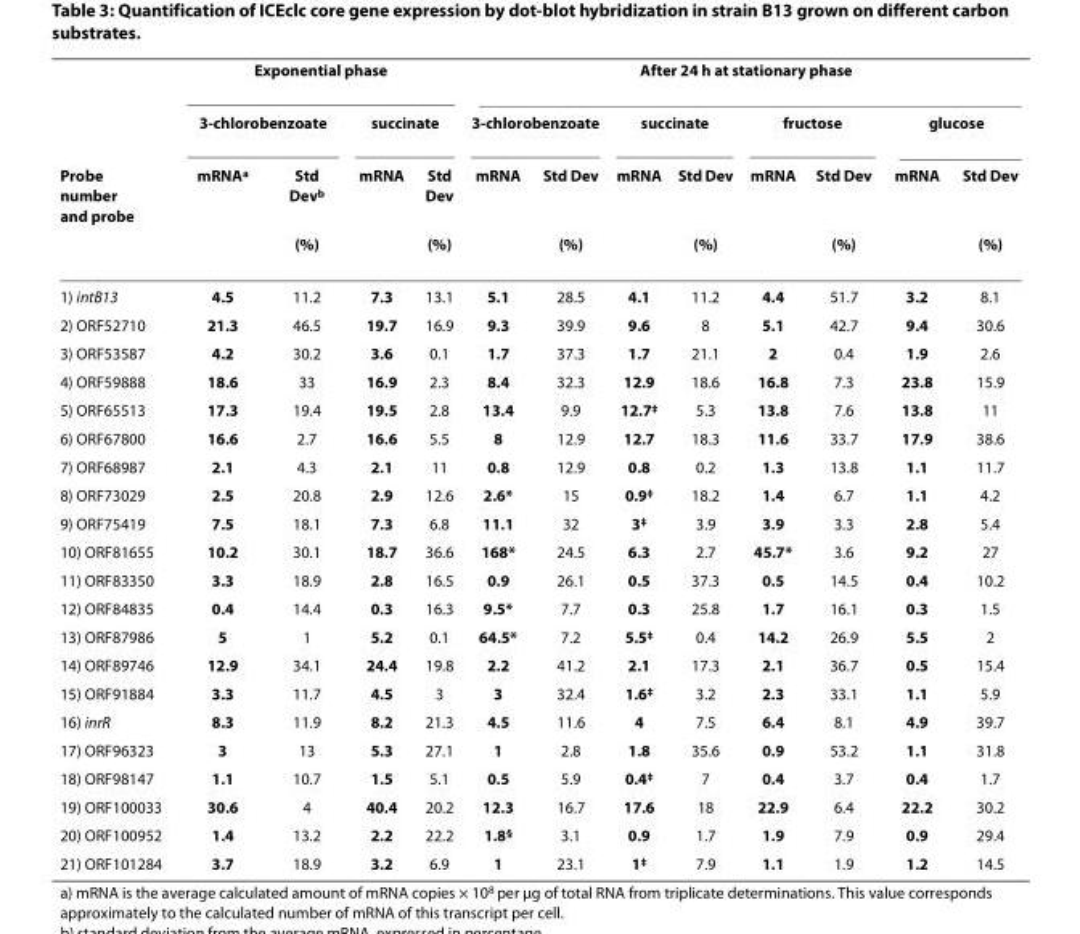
<table><thead><tr><td rowspan="4">Probe number and probe</td><td colspan="4">Exponential phase</td><td colspan="8">After 24 h at stationary phase</td></tr><tr><td colspan="2">3-chlorobenzoate</td><td colspan="2">succinate</td><td colspan="2">3-chlorobenzoate</td><td colspan="2">succinate</td><td colspan="2">fructose</td><td colspan="2">glucose</td></tr><tr><td rowspan="2">mRNA<sup>a</sup></td><td rowspan="2">Std Dev<sup>b</sup> (%)</td><td rowspan="2">mRNA</td><td rowspan="2">Std Dev (%)</td><td rowspan="2">mRNA</td><td rowspan="2">Std Dev (%)</td><td rowspan="2">mRNA</td><td rowspan="2">Std Dev (%)</td><td rowspan="2">mRNA</td><td rowspan="2">Std Dev (%)</td><td rowspan="2">mRNA</td><td rowspan="2">Std Dev (%)</td></tr><tr></tr></thead><tbody><tr><td>1) intB13</td><td>4.5</td><td>11.2</td><td>7.3</td><td>13.1</td><td>5.1</td><td>28.5</td><td>4.1</td><td>11.2</td><td>4.4</td><td>51.7</td><td>3.2</td><td>8.1</td></tr><tr><td>2) ORF52710</td><td>21.3</td><td>46.5</td><td>19.7</td><td>16.9</td><td>9.3</td><td>39.9</td><td>9.6</td><td>8</td><td>5.1</td><td>42.7</td><td>9.4</td><td>30.6</td></tr><tr><td>3) ORF53587</td><td>4.2</td><td>30.2</td><td>3.6</td><td>0.1</td><td>1.7</td><td>37.3</td><td>1.7</td><td>21.1</td><td>2</td><td>0.4</td><td>1.9</td><td>2.6</td></tr><tr><td>4) ORF59888</td><td>18.6</td><td>33</td><td>16.9</td><td>2.3</td><td>8.4</td><td>32.3</td><td>12.9</td><td>18.6</td><td>16.8</td><td>7.3</td><td>23.8</td><td>15.9</td></tr><tr><td>5) ORF65513</td><td>17.3</td><td>19.4</td><td>19.5</td><td>2.8</td><td>13.4</td><td>9.9</td><td>12.7<sup>‡</sup></td><td>5.3</td><td>13.8</td><td>7.6</td><td>13.8</td><td>11</td></tr><tr><td>6) ORF67800</td><td>16.6</td><td>2.7</td><td>16.6</td><td>5.5</td><td>8</td><td>12.9</td><td>12.7</td><td>18.3</td><td>11.6</td><td>33.7</td><td>17.9</td><td>38.6</td></tr><tr><td>7) ORF68987</td><td>2.1</td><td>4.3</td><td>2.1</td><td>11</td><td>0.8</td><td>12.9</td><td>0.8</td><td>0.2</td><td>1.3</td><td>13.8</td><td>1.1</td><td>11.7</td></tr><tr><td>8) ORF73029</td><td>2.5</td><td>20.8</td><td>2.9</td><td>12.6</td><td>2.6*</td><td>15</td><td>0.9<sup>‡</sup></td><td>18.2</td><td>1.4</td><td>6.7</td><td>1.1</td><td>4.2</td></tr><tr><td>9) ORF75419</td><td>7.5</td><td>18.1</td><td>7.3</td><td>6.8</td><td>11.1</td><td>32</td><td>3<sup>‡</sup></td><td>3.9</td><td>3.9</td><td>3.3</td><td>2.8</td><td>5.4</td></tr><tr><td>10) ORF81655</td><td>10.2</td><td>30.1</td><td>18.7</td><td>36.6</td><td>168*</td><td>24.5</td><td>6.3</td><td>2.7</td><td>45.7*</td><td>3.6</td><td>9.2</td><td>27</td></tr><tr><td>11) ORF83350</td><td>3.3</td><td>18.9</td><td>2.8</td><td>16.5</td><td>0.9</td><td>26.1</td><td>0.5</td><td>37.3</td><td>0.5</td><td>14.5</td><td>0.4</td><td>10.2</td></tr><tr><td>12) ORF84835</td><td>0.4</td><td>14.4</td><td>0.3</td><td>16.3</td><td>9.5*</td><td>7.7</td><td>0.3</td><td>25.8</td><td>1.7</td><td>16.1</td><td>0.3</td><td>1.5</td></tr><tr><td>13) ORF87986</td><td>5</td><td>1</td><td>5.2</td><td>0.1</td><td>64.5*</td><td>7.2</td><td>5.5<sup>‡</sup></td><td>0.4</td><td>14.2</td><td>26.9</td><td>5.5</td><td>2</td></tr><tr><td>14) ORF89746</td><td>12.9</td><td>34.1</td><td>24.4</td><td>19.8</td><td>2.2</td><td>41.2</td><td>2.1</td><td>17.3</td><td>2.1</td><td>36.7</td><td>0.5</td><td>15.4</td></tr><tr><td>15) ORF91884</td><td>3.3</td><td>11.7</td><td>4.5</td><td>3</td><td>3</td><td>32.4</td><td>1.6<sup>‡</sup></td><td>3.2</td><td>2.3</td><td>33.1</td><td>1.1</td><td>5.9</td></tr><tr><td>16) inrR</td><td>8.3</td><td>11.9</td><td>8.2</td><td>21.3</td><td>4.5</td><td>11.6</td><td>4</td><td>7.5</td><td>6.4</td><td>8.1</td><td>4.9</td><td>39.7</td></tr><tr><td>17) ORF96323</td><td>3</td><td>13</td><td>5.3</td><td>27.1</td><td>1</td><td>2.8</td><td>1.8</td><td>35.6</td><td>0.9</td><td>53.2</td><td>1.1</td><td>31.8</td></tr><tr><td>18) ORF98147</td><td>1.1</td><td>10.7</td><td>1.5</td><td>5.1</td><td>0.5</td><td>5.9</td><td>0.4<sup>‡</sup></td><td>7</td><td>0.4</td><td>3.7</td><td>0.4</td><td>1.7</td></tr><tr><td>19) ORF100033</td><td>30.6</td><td>4</td><td>40.4</td><td>20.2</td><td>12.3</td><td>16.7</td><td>17.6</td><td>18</td><td>22.9</td><td>6.4</td><td>22.2</td><td>30.2</td></tr><tr><td>20) ORF100952</td><td>1.4</td><td>13.2</td><td>2.2</td><td>22.2</td><td>1.8<sup>§</sup></td><td>3.1</td><td>0.9</td><td>1.7</td><td>1.9</td><td>7.9</td><td>0.9</td><td>29.4</td></tr><tr><td>21) ORF101284</td><td>3.7</td><td>18.9</td><td>3.2</td><td>6.9</td><td>1</td><td>23.1</td><td>1<sup>‡</sup></td><td>7.9</td><td>1.1</td><td>1.9</td><td>1.2</td><td>14.5</td></tr></tbody></table>